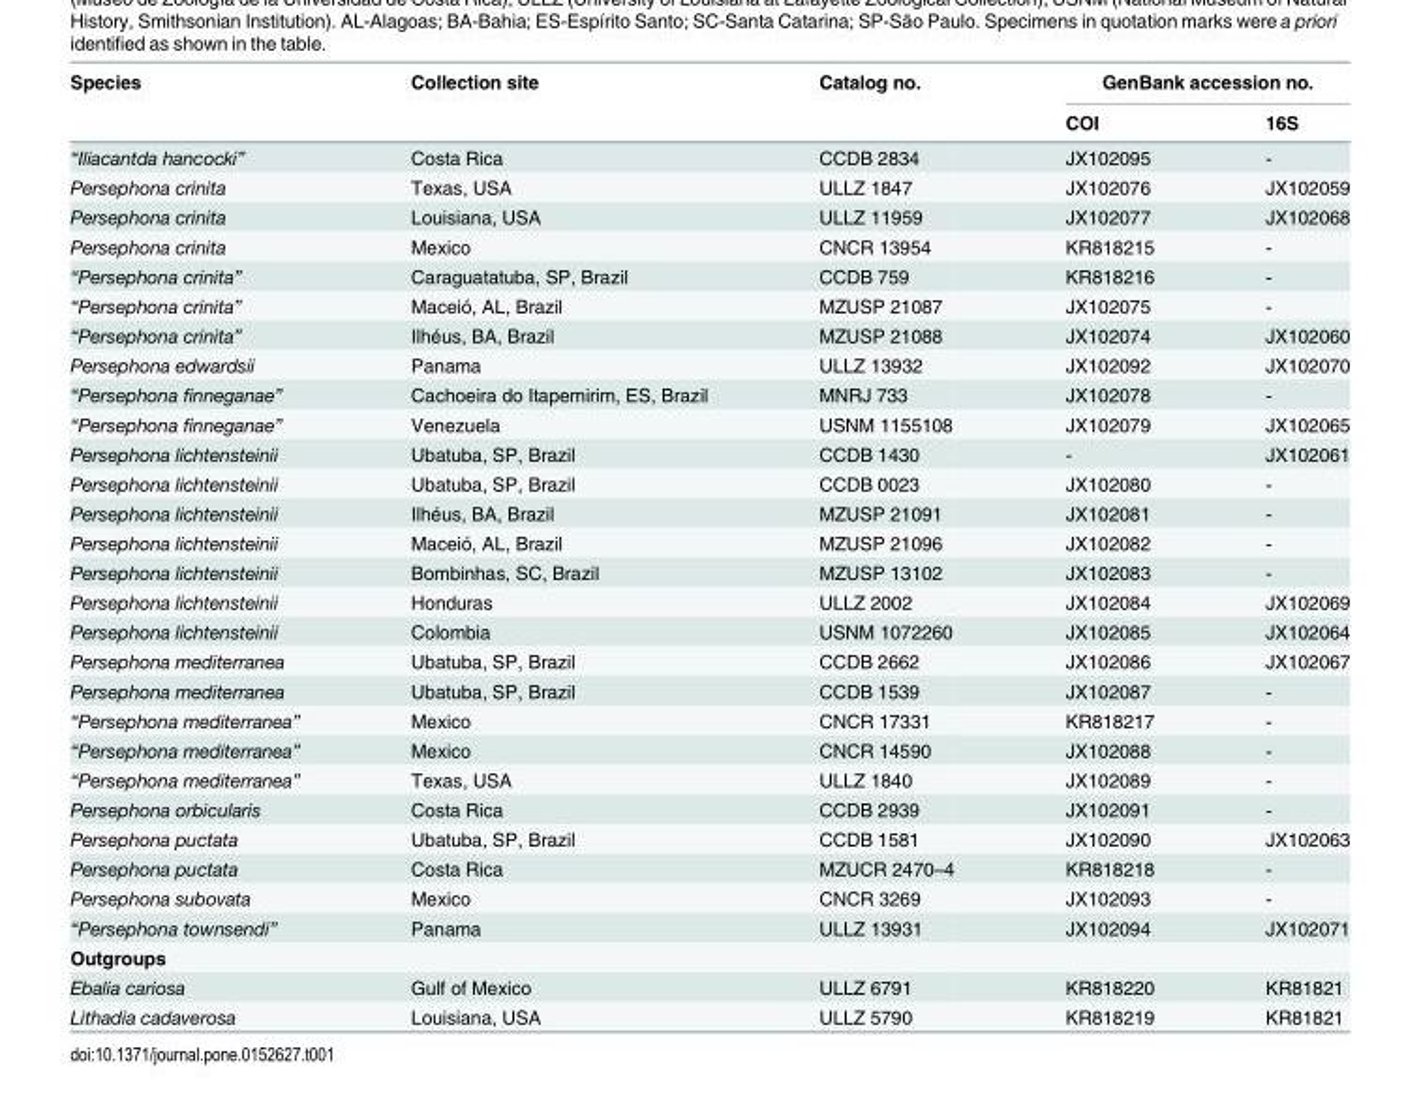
<table><thead><tr><td rowspan="3">Species “Iliacantda hancocki”</td><td rowspan="3">Collection site Costa Rica</td><td rowspan="3">Catalog no. CCDB 2834</td><td colspan="2">GenBank accession no.</td></tr><tr><td rowspan="2">COI JX102095</td><td rowspan="2">16S -</td></tr><tr></tr></thead><tbody><tr><td>Persephona crinita</td><td>Texas, USA</td><td>ULLZ 1847</td><td>JX102076</td><td>JX102059</td></tr><tr><td>Persephona crinita</td><td>Louisiana, USA</td><td>ULLZ 11959</td><td>JX102077</td><td>JX102068</td></tr><tr><td>Persephona crinita</td><td>Mexico</td><td>CNCR 13954</td><td>KR818215</td><td>-</td></tr><tr><td>“Persephona crinita”</td><td>Caraguatatuba, SP, Brazil</td><td>CCDB 759</td><td>KR818216</td><td>-</td></tr><tr><td>“Persephona crinita”</td><td>Maceió, AL, Brazil</td><td>MZUSP 21087</td><td>JX102075</td><td>-</td></tr><tr><td>“Persephona crinita”</td><td>Ilhéus, BA, Brazil</td><td>MZUSP 21088</td><td>JX102074</td><td>JX102060</td></tr><tr><td>Persephona edwardsii</td><td>Panama</td><td>ULLZ 13932</td><td>JX102092</td><td>JX102070</td></tr><tr><td>“Persephona finneganae”</td><td>Cachoeira do Itapemirim, ES, Brazil</td><td>MNRJ 733</td><td>JX102078</td><td>-</td></tr><tr><td>“Persephona finneganae”</td><td>Venezuela</td><td>USNM 1155108</td><td>JX102079</td><td>JX102065</td></tr><tr><td>Persephona lichtensteinii</td><td>Ubatuba, SP, Brazil</td><td>CCDB 1430</td><td>-</td><td>JX102061</td></tr><tr><td>Persephona lichtensteinii</td><td>Ubatuba, SP, Brazil</td><td>CCDB 0023</td><td>JX102080</td><td>-</td></tr><tr><td>Persephona lichtensteinii</td><td>Ilhéus, BA, Brazil</td><td>MZUSP 21091</td><td>JX102081</td><td>-</td></tr><tr><td>Persephona lichtensteinii</td><td>Maceió, AL, Brazil</td><td>MZUSP 21096</td><td>JX102082</td><td>-</td></tr><tr><td>Persephona lichtensteinii</td><td>Bombinhas, SC, Brazil</td><td>MZUSP 13102</td><td>JX102083</td><td>-</td></tr><tr><td>Persephona lichtensteinii</td><td>Honduras</td><td>ULLZ 2002</td><td>JX102084</td><td>JX102069</td></tr><tr><td>Persephona lichtensteinii</td><td>Colombia</td><td>USNM 1072260</td><td>JX102085</td><td>JX102064</td></tr><tr><td>Persephona mediterranea</td><td>Ubatuba, SP, Brazil</td><td>CCDB 2662</td><td>JX102086</td><td>JX102067</td></tr><tr><td>Persephona mediterranea</td><td>Ubatuba, SP, Brazil</td><td>CCDB 1539</td><td>JX102087</td><td>-</td></tr><tr><td>“Persephona mediterranea”</td><td>Mexico</td><td>CNCR 17331</td><td>KR818217</td><td>-</td></tr><tr><td>“Persephona mediterranea”</td><td>Mexico</td><td>CNCR 14590</td><td>JX102088</td><td>-</td></tr><tr><td>“Persephona mediterranea”</td><td>Texas, USA</td><td>ULLZ 1840</td><td>JX102089</td><td>-</td></tr><tr><td>Persephona orbicularis</td><td>Costa Rica</td><td>CCDB 2939</td><td>JX102091</td><td>-</td></tr><tr><td>Persephona puctata</td><td>Ubatuba, SP, Brazil</td><td>CCDB 1581</td><td>JX102090</td><td>JX102063</td></tr><tr><td>Persephona puctata</td><td>Costa Rica</td><td>MZUCR 2470–4</td><td>KR818218</td><td>-</td></tr><tr><td>Persephona subovata</td><td>Mexico</td><td>CNCR 3269</td><td>JX102093</td><td>-</td></tr><tr><td>“Persephona townsendi”</td><td>Panama</td><td>ULLZ 13931</td><td>JX102094</td><td>JX102071</td></tr><tr><td colspan="5">Outgroups</td></tr><tr><td>Ebalia cariosa</td><td>Gulf of Mexico</td><td>ULLZ 6791</td><td>KR818220</td><td>KR81821</td></tr><tr><td>Lithadia cadaverosa</td><td>Louisiana, USA</td><td>ULLZ 5790</td><td>KR818219</td><td>KR81821</td></tr></tbody></table>